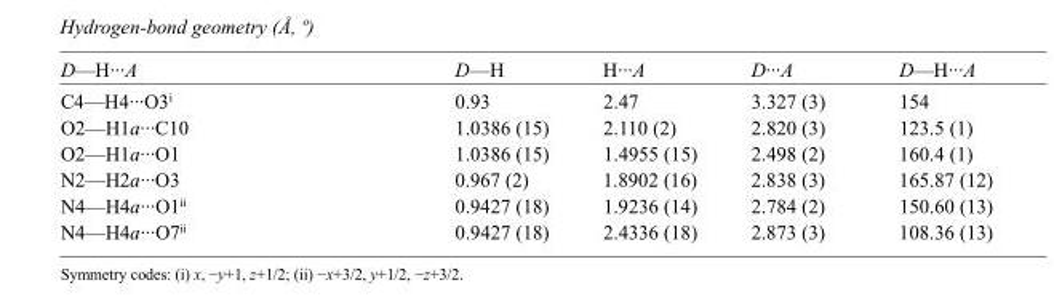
<table><tbody><tr><td>D—H···A</td><td>D—H</td><td>H···A</td><td>D···A</td><td>D—H···A</td></tr><tr><td>C4—H4···O3<sup>i</sup></td><td>0.93</td><td>2.47</td><td>3.327 (3)</td><td>154</td></tr><tr><td>O2—H1a···C10</td><td>1.0386 (15)</td><td>2.110 (2)</td><td>2.820 (3)</td><td>123.5 (1)</td></tr><tr><td>O2—H1a···O1</td><td>1.0386 (15)</td><td>1.4955 (15)</td><td>2.498 (2)</td><td>160.4 (1)</td></tr><tr><td>N2—H2a···O3</td><td>0.967 (2)</td><td>1.8902 (16)</td><td>2.838 (3)</td><td>165.87 (12)</td></tr><tr><td>N4—H4a···O1<sup>ii</sup></td><td>0.9427 (18)</td><td>1.9236 (14)</td><td>2.784 (2)</td><td>150.60 (13)</td></tr><tr><td>N4—H4a···O7<sup>ii</sup></td><td>0.9427 (18)</td><td>2.4336 (18)</td><td>2.873 (3)</td><td>108.36 (13)</td></tr></tbody></table>